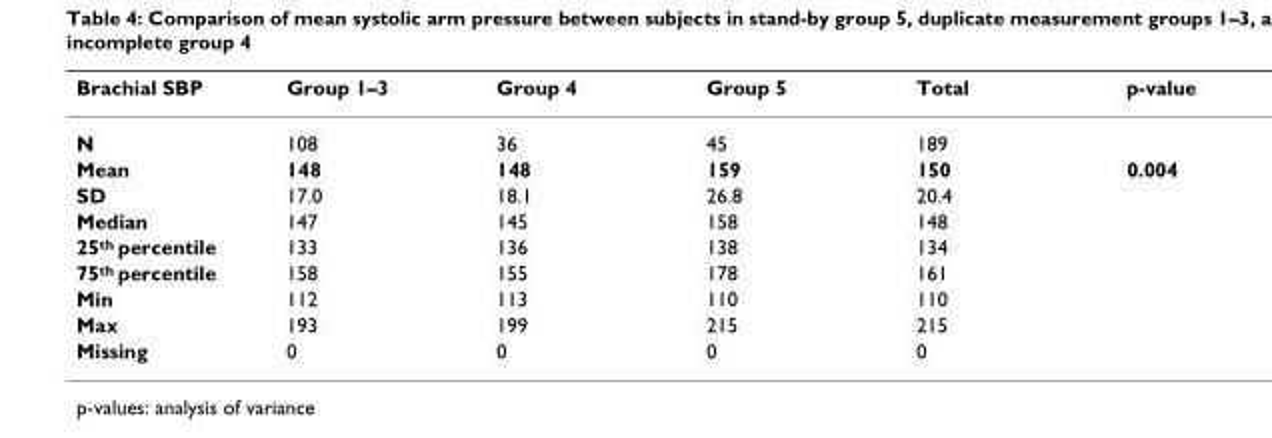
<table><thead><tr><td>Brachial SBP</td><td>Group 1–3</td><td>Group 4</td><td>Group 5</td><td>Total</td><td>p-value</td></tr></thead><tbody><tr><td>N</td><td>108</td><td>36</td><td>45</td><td>189</td><td></td></tr><tr><td>Mean</td><td>148</td><td>148</td><td>159</td><td>150</td><td>0.004</td></tr><tr><td>SD</td><td>17.0</td><td>18.1</td><td>26.8</td><td>20.4</td><td></td></tr><tr><td>Median</td><td>147</td><td>145</td><td>158</td><td>148</td><td></td></tr><tr><td>25<sup>th</sup> percentile</td><td>133</td><td>136</td><td>138</td><td>134</td><td></td></tr><tr><td>75<sup>th</sup> percentile</td><td>158</td><td>155</td><td>178</td><td>161</td><td></td></tr><tr><td>Min</td><td>112</td><td>113</td><td>110</td><td>110</td><td></td></tr><tr><td>Max</td><td>193</td><td>199</td><td>215</td><td>215</td><td></td></tr><tr><td>Missing</td><td>0</td><td>0</td><td>0</td><td>0</td><td></td></tr></tbody></table>